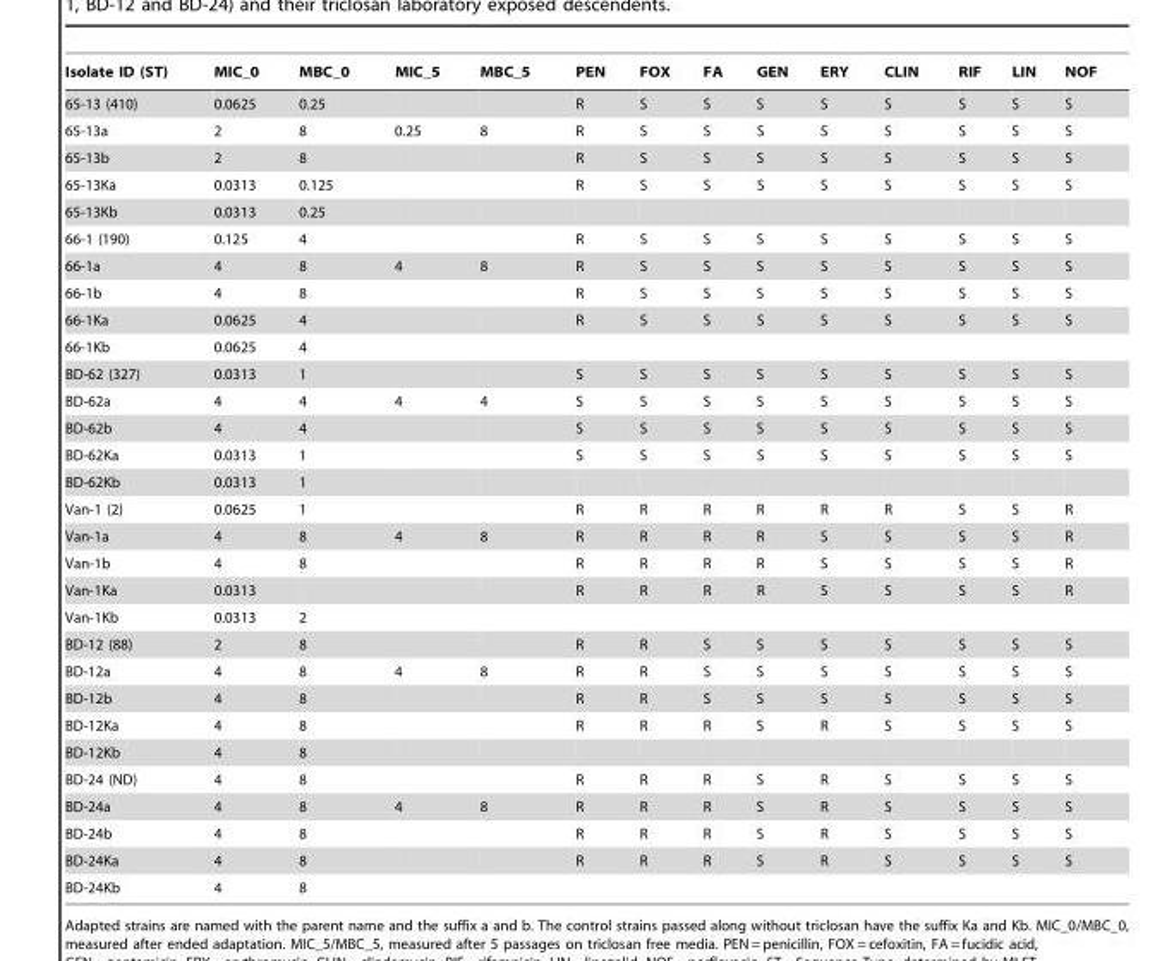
<table><thead><tr><td>Isolate ID (ST)</td><td>MIC_0</td><td>MBC_0</td><td>MIC_5</td><td>MBC_5</td><td>PEN</td><td>FOX</td><td>FA</td><td>GEN</td><td>ERY</td><td>CLIN</td><td>RIF</td><td>LIN</td><td>NOF</td></tr></thead><tbody><tr><td>65-13 (410)</td><td>0.0625</td><td>0.25</td><td></td><td></td><td>R</td><td>S</td><td>S</td><td>S</td><td>S</td><td>S</td><td>S</td><td>S</td><td>S</td></tr><tr><td>65-13a</td><td>2</td><td>8</td><td>0.25</td><td>8</td><td>R</td><td>S</td><td>S</td><td>S</td><td>S</td><td>S</td><td>S</td><td>S</td><td>S</td></tr><tr><td>65-13b</td><td>2</td><td>8</td><td></td><td></td><td>R</td><td>S</td><td>S</td><td>S</td><td>S</td><td>S</td><td>S</td><td>S</td><td>S</td></tr><tr><td>65-13Ka</td><td>0.0313</td><td>0.125</td><td></td><td></td><td>R</td><td>S</td><td>S</td><td>S</td><td>S</td><td>S</td><td>S</td><td>S</td><td>S</td></tr><tr><td>65-13Kb</td><td>0.0313</td><td>0.25</td><td></td><td></td><td></td><td></td><td></td><td></td><td></td><td></td><td></td><td></td><td></td></tr><tr><td>66-1 (190)</td><td>0.125</td><td>4</td><td></td><td></td><td>R</td><td>S</td><td>S</td><td>S</td><td>S</td><td>S</td><td>S</td><td>S</td><td>S</td></tr><tr><td>66-1a</td><td>4</td><td>8</td><td>4</td><td>8</td><td>R</td><td>S</td><td>S</td><td>S</td><td>S</td><td>S</td><td>S</td><td>S</td><td>S</td></tr><tr><td>66-1b</td><td>4</td><td>8</td><td></td><td></td><td>R</td><td>S</td><td>S</td><td>S</td><td>S</td><td>S</td><td>S</td><td>S</td><td>S</td></tr><tr><td>66-1Ka</td><td>0.0625</td><td>4</td><td></td><td></td><td>R</td><td>S</td><td>S</td><td>S</td><td>S</td><td>S</td><td>S</td><td>S</td><td>S</td></tr><tr><td>66-1Kb</td><td>0.0625</td><td>4</td><td></td><td></td><td></td><td></td><td></td><td></td><td></td><td></td><td></td><td></td><td></td></tr><tr><td>BD-62 (327)</td><td>0.0313</td><td>1</td><td></td><td></td><td>S</td><td>S</td><td>S</td><td>S</td><td>S</td><td>S</td><td>S</td><td>S</td><td>S</td></tr><tr><td>BD-62a</td><td>4</td><td>4</td><td>4</td><td>4</td><td>S</td><td>S</td><td>S</td><td>S</td><td>S</td><td>S</td><td>S</td><td>S</td><td>S</td></tr><tr><td>BD-62b</td><td>4</td><td>4</td><td></td><td></td><td>S</td><td>S</td><td>S</td><td>S</td><td>S</td><td>S</td><td>S</td><td>S</td><td>S</td></tr><tr><td>BD-62Ka</td><td>0.0313</td><td>1</td><td></td><td></td><td>S</td><td>S</td><td>S</td><td>S</td><td>S</td><td>S</td><td>S</td><td>S</td><td>S</td></tr><tr><td>BD-62Kb</td><td>0.0313</td><td>1</td><td></td><td></td><td></td><td></td><td></td><td></td><td></td><td></td><td></td><td></td><td></td></tr><tr><td>Van-1 (2)</td><td>0.0625</td><td>1</td><td></td><td></td><td>R</td><td>R</td><td>R</td><td>R</td><td>R</td><td>R</td><td>S</td><td>S</td><td>R</td></tr><tr><td>Van-1a</td><td>4</td><td>8</td><td>4</td><td>8</td><td>R</td><td>R</td><td>R</td><td>R</td><td>S</td><td>S</td><td>S</td><td>S</td><td>R</td></tr><tr><td>Van-1b</td><td>4</td><td>8</td><td></td><td></td><td>R</td><td>R</td><td>R</td><td>R</td><td>S</td><td>S</td><td>S</td><td>S</td><td>R</td></tr><tr><td>Van-1Ka</td><td>0.0313</td><td></td><td></td><td></td><td>R</td><td>R</td><td>R</td><td>R</td><td>S</td><td>S</td><td>S</td><td>S</td><td>R</td></tr><tr><td>Van-1Kb</td><td>0.0313</td><td>2</td><td></td><td></td><td></td><td></td><td></td><td></td><td></td><td></td><td></td><td></td><td></td></tr><tr><td>BD-12 (88)</td><td>2</td><td>8</td><td></td><td></td><td>R</td><td>R</td><td>S</td><td>S</td><td>S</td><td>S</td><td>S</td><td>S</td><td>S</td></tr><tr><td>BD-12a</td><td>4</td><td>8</td><td>4</td><td>8</td><td>R</td><td>R</td><td>S</td><td>S</td><td>S</td><td>S</td><td>S</td><td>S</td><td>S</td></tr><tr><td>BD-12b</td><td>4</td><td>8</td><td></td><td></td><td>R</td><td>R</td><td>S</td><td>S</td><td>S</td><td>S</td><td>S</td><td>S</td><td>S</td></tr><tr><td>BD-12Ka</td><td>4</td><td>8</td><td></td><td></td><td>R</td><td>R</td><td>R</td><td>S</td><td>R</td><td>S</td><td>S</td><td>S</td><td>S</td></tr><tr><td>BD-12Kb</td><td>4</td><td>8</td><td></td><td></td><td></td><td></td><td></td><td></td><td></td><td></td><td></td><td></td><td></td></tr><tr><td>BD-24 (ND)</td><td>4</td><td>8</td><td></td><td></td><td>R</td><td>R</td><td>R</td><td>S</td><td>R</td><td>S</td><td>S</td><td>S</td><td>S</td></tr><tr><td>BD-24a</td><td>4</td><td>8</td><td>4</td><td>8</td><td>R</td><td>R</td><td>R</td><td>S</td><td>R</td><td>S</td><td>S</td><td>S</td><td>S</td></tr><tr><td>BD-24b</td><td>4</td><td>8</td><td></td><td></td><td>R</td><td>R</td><td>R</td><td>S</td><td>R</td><td>S</td><td>S</td><td>S</td><td>S</td></tr><tr><td>BD-24Ka</td><td>4</td><td>8</td><td></td><td></td><td>R</td><td>R</td><td>R</td><td>S</td><td>R</td><td>S</td><td>S</td><td>S</td><td>S</td></tr><tr><td>BD-24Kb</td><td>4</td><td>8</td><td></td><td></td><td></td><td></td><td></td><td></td><td></td><td></td><td></td><td></td><td></td></tr></tbody></table>